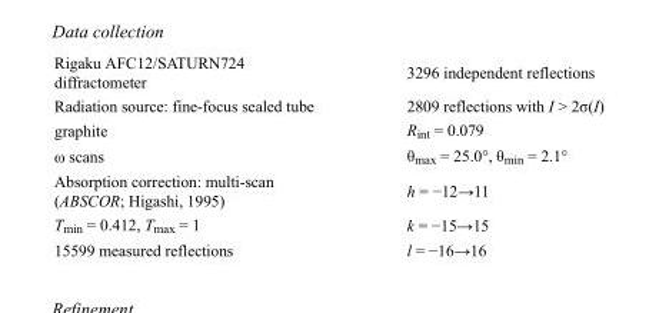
<table><tbody><tr><td>Rigaku AFC12/SATURN724 diffractometer</td><td>3296 independent reflections</td></tr><tr><td>Radiation source: fine-focus sealed tube</td><td>2809 reflections with I &gt; 2σ(I)</td></tr><tr><td>graphite</td><td>R<sub>int</sub> = 0.079</td></tr><tr><td>ω scans</td><td>θ<sub>max</sub> = 25.0°, θ<sub>min</sub> = 2.1°</td></tr><tr><td>Absorption correction: multi-scan (ABSCOR; Higashi, 1995)</td><td>h = −12→11</td></tr><tr><td>T<sub>min</sub> = 0.412, T<sub>max</sub> = 1</td><td>k = −15→15</td></tr><tr><td>15599 measured reflections</td><td>l = −16→16</td></tr></tbody></table>